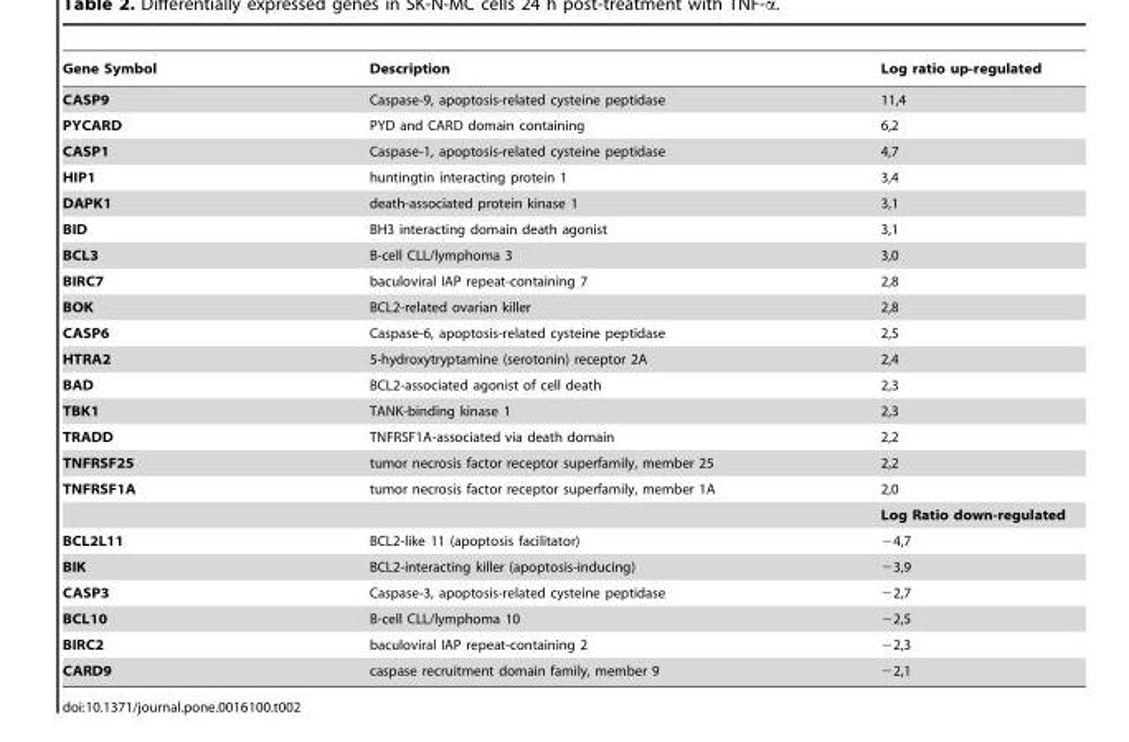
<table><thead><tr><td>Gene Symbol</td><td>Description</td><td>Log ratio up-regulated</td></tr></thead><tbody><tr><td>CASP9</td><td>Caspase-9, apoptosis-related cysteine peptidase</td><td>11,4</td></tr><tr><td>PYCARD</td><td>PYD and CARD domain containing</td><td>6,2</td></tr><tr><td>CASP1</td><td>Caspase-1, apoptosis-related cysteine peptidase</td><td>4,7</td></tr><tr><td>HIP1</td><td>huntingtin interacting protein 1</td><td>3,4</td></tr><tr><td>DAPK1</td><td>death-associated protein kinase 1</td><td>3,1</td></tr><tr><td>BID</td><td>BH3 interacting domain death agonist</td><td>3,1</td></tr><tr><td>BCL3</td><td>B-cell CLL/lymphoma 3</td><td>3,0</td></tr><tr><td>BIRC7</td><td>baculoviral IAP repeat-containing 7</td><td>2,8</td></tr><tr><td>BOK</td><td>BCL2-related ovarian killer</td><td>2,8</td></tr><tr><td>CASP6</td><td>Caspase-6, apoptosis-related cysteine peptidase</td><td>2,5</td></tr><tr><td>HTRA2</td><td>5-hydroxytryptamine (serotonin) receptor 2A</td><td>2,4</td></tr><tr><td>BAD</td><td>BCL2-associated agonist of cell death</td><td>2,3</td></tr><tr><td>TBK1</td><td>TANK-binding kinase 1</td><td>2,3</td></tr><tr><td>TRADD</td><td>TNFRSF1A-associated via death domain</td><td>2,2</td></tr><tr><td>TNFRSF25</td><td>tumor necrosis factor receptor superfamily, member 25</td><td>2,2</td></tr><tr><td rowspan="2">TNFRSF1A</td><td>tumor necrosis factor receptor superfamily, member 1A</td><td>2,0</td></tr><tr><td></td><td>Log Ratio down-regulated</td></tr><tr><td>BCL2L11</td><td>BCL2-like 11 (apoptosis facilitator)</td><td>−4,7</td></tr><tr><td>BIK</td><td>BCL2-interacting killer (apoptosis-inducing)</td><td>−3,9</td></tr><tr><td>CASP3</td><td>Caspase-3, apoptosis-related cysteine peptidase</td><td>−2,7</td></tr><tr><td>BCL10</td><td>B-cell CLL/lymphoma 10</td><td>−2,5</td></tr><tr><td>BIRC2</td><td>baculoviral IAP repeat-containing 2</td><td>−2,3</td></tr><tr><td>CARD9</td><td>caspase recruitment domain family, member 9</td><td>−2,1</td></tr></tbody></table>